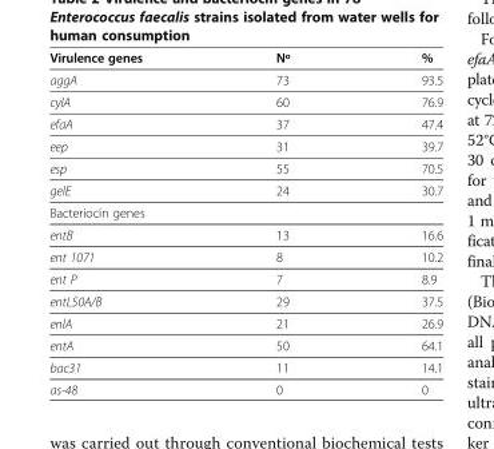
<table><thead><tr><td>Virulence genes</td><td>Nº</td><td>%</td></tr></thead><tbody><tr><td>aggA</td><td>73</td><td>93.5</td></tr><tr><td>cylA</td><td>60</td><td>76.9</td></tr><tr><td>efaA</td><td>37</td><td>47.4</td></tr><tr><td>eep</td><td>31</td><td>39.7</td></tr><tr><td>esp</td><td>55</td><td>70.5</td></tr><tr><td>gelE</td><td>24</td><td>30.7</td></tr><tr><td colspan="3">Bacteriocin genes</td></tr><tr><td>entB</td><td>13</td><td>16.6</td></tr><tr><td>ent 1071</td><td>8</td><td>10.2</td></tr><tr><td>ent P</td><td>7</td><td>8.9</td></tr><tr><td>entL50A/B</td><td>29</td><td>37.5</td></tr><tr><td>enlA</td><td>21</td><td>26.9</td></tr><tr><td>entA</td><td>50</td><td>64.1</td></tr><tr><td>bac31</td><td>11</td><td>14.1</td></tr><tr><td>as-48</td><td>0</td><td>0</td></tr></tbody></table>